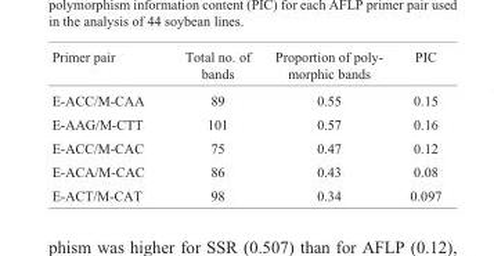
<table><thead><tr><td>Primer pair</td><td>Total no. of bands</td><td>Proportion of poly- morphic bands</td><td>PIC</td></tr></thead><tbody><tr><td>E-ACC/M-CAA</td><td>89</td><td>0.55</td><td>0.15</td></tr><tr><td>E-AAG/M-CTT</td><td>101</td><td>0.57</td><td>0.16</td></tr><tr><td>E-ACC/M-CAC</td><td>75</td><td>0.47</td><td>0.12</td></tr><tr><td>E-ACA/M-CAC</td><td>86</td><td>0.43</td><td>0.08</td></tr><tr><td>E-ACT/M-CAT</td><td>98</td><td>0.34</td><td>0.097</td></tr></tbody></table>